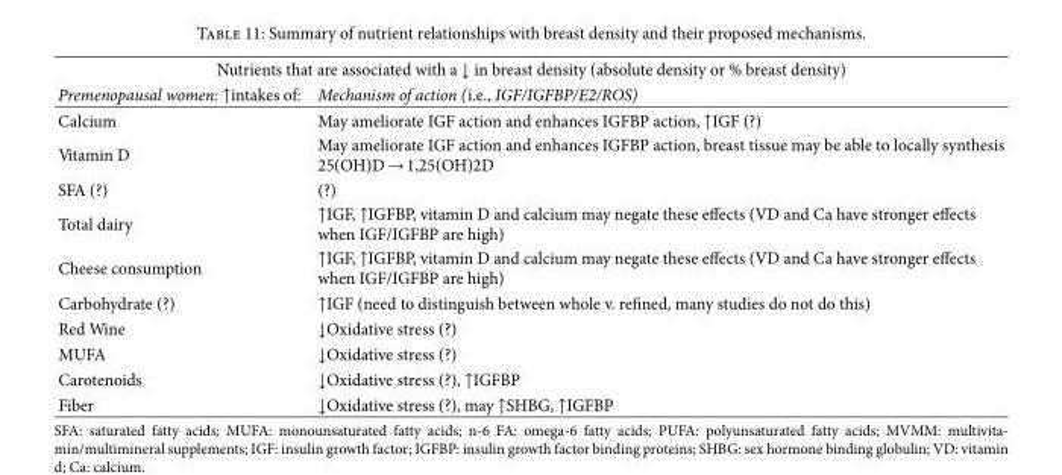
<table><thead><tr><td colspan="2">Nutrients that are associated with a ↓ in breast density (absolute density or % breast density)</td></tr><tr><td>Premenopausal women: ↑intakes of:</td><td>Mechanism of action (i.e., IGF/IGFBP/E2/ROS)</td></tr></thead><tbody><tr><td>Calcium</td><td>May ameliorate IGF action and enhances IGFBP action, ↑IGF (?)</td></tr><tr><td>Vitamin D</td><td>May ameliorate IGF action and enhances IGFBP action, breast tissue may be able to locally synthesis 25(OH)D → 1,25(OH)2D</td></tr><tr><td>SFA (?)</td><td>(?)</td></tr><tr><td>Total dairy</td><td>↑IGF, ↑IGFBP, vitamin D and calcium may negate these effects (VD and Ca have stronger effects when IGF/IGFBP are high)</td></tr><tr><td>Cheese consumption</td><td>↑IGF, ↑IGFBP, vitamin D and calcium may negate these effects (VD and Ca have stronger effects when IGF/IGFBP are high)</td></tr><tr><td>Carbohydrate (?)</td><td>↑IGF (need to distinguish between whole v. re�ned, many studies do not do this)</td></tr><tr><td>Red Wine</td><td>↓Oxidative stress (?)</td></tr><tr><td>MUFA</td><td>↓Oxidative stress (?)</td></tr><tr><td>Carotenoids</td><td>↓Oxidative stress (?), ↑IGFBP</td></tr><tr><td>Fiber</td><td>↓Oxidative stress (?), may ↑SHBG, ↑IGFBP</td></tr></tbody></table>